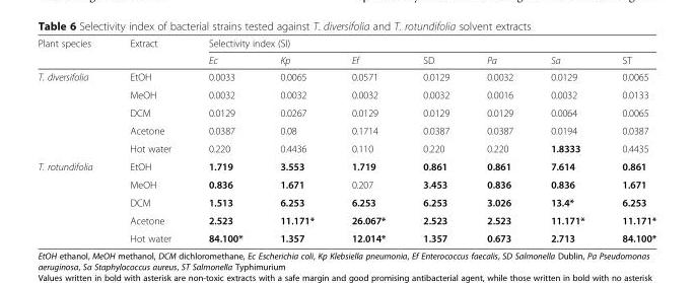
<table><thead><tr><td rowspan="2">Plant species</td><td rowspan="2">Extract</td><td colspan="7">Selectivity index (SI)</td></tr><tr><td>Ec</td><td>Kp</td><td>Ef</td><td>SD</td><td>Pa</td><td>Sa</td><td>ST</td></tr></thead><tbody><tr><td rowspan="5">T. diversifolia</td><td>EtOH</td><td>0.0033</td><td>0.0065</td><td>0.0571</td><td>0.0129</td><td>0.0032</td><td>0.0129</td><td>0.0065</td></tr><tr><td>MeOH</td><td>0.0032</td><td>0.0032</td><td>0.0032</td><td>0.0032</td><td>0.0016</td><td>0.0032</td><td>0.0133</td></tr><tr><td>DCM</td><td>0.0129</td><td>0.0267</td><td>0.0129</td><td>0.0129</td><td>0.0129</td><td>0.0064</td><td>0.0065</td></tr><tr><td>Acetone</td><td>0.0387</td><td>0.08</td><td>0.1714</td><td>0.0387</td><td>0.0387</td><td>0.0194</td><td>0.0387</td></tr><tr><td>Hot water</td><td>0.220</td><td>0.4436</td><td>0.110</td><td>0.220</td><td>0.220</td><td>1.8333</td><td>0.4435</td></tr><tr><td rowspan="5">T. rotundifolia</td><td>EtOH</td><td>1.719</td><td>3.553</td><td>1.719</td><td>0.861</td><td>0.861</td><td>7.614</td><td>0.861</td></tr><tr><td>MeOH</td><td>0.836</td><td>1.671</td><td>0.207</td><td>3.453</td><td>0.836</td><td>0.836</td><td>1.671</td></tr><tr><td>DCM</td><td>1.513</td><td>6.253</td><td>6.253</td><td>6.253</td><td>3.026</td><td>13.4*</td><td>6.253</td></tr><tr><td>Acetone</td><td>2.523</td><td>11.171*</td><td>26.067*</td><td>2.523</td><td>2.523</td><td>11.171*</td><td>11.171*</td></tr><tr><td>Hot water</td><td>84.100*</td><td>1.357</td><td>12.014*</td><td>1.357</td><td>0.673</td><td>2.713</td><td>84.100*</td></tr></tbody></table>